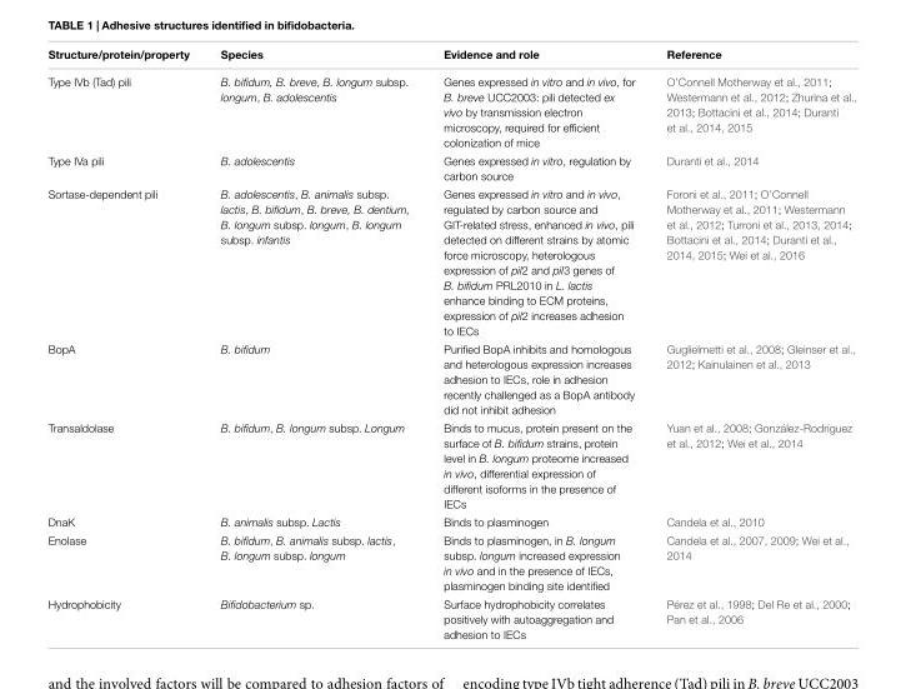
<table><thead><tr><td>Structure/protein/property</td><td>Species</td><td>Evidence and role</td><td>Reference</td></tr></thead><tbody><tr><td>Type IVb (Tad) pili</td><td>B. bifidum, B. breve, B. longum subsp. longum, B. adolescentis</td><td>Genes expressed in vitro and in vivo, for B. breve UCC2003: pili detected ex vivo by transmission electron microscopy, required for efficient colonization of mice</td><td>O’Connell Motherway et al., 2011; Westermann et al., 2012; Zhurina et al., 2013; Bottacini et al., 2014; Duranti et al., 2014, 2015</td></tr><tr><td>Type IVa pili</td><td>B. adolescentis</td><td>Genes expressed in vitro, regulation by carbon source</td><td>Duranti et al., 2014</td></tr><tr><td>Sortase-dependent pili</td><td>B. adolescentis, B. animalis subsp. lactis, B. bifidum, B. breve, B. dentium, B. longum subsp. longum, B. longum subsp. infantis</td><td>Genes expressed in vitro and in vivo, regulated by carbon source and GIT-related stress, enhanced in vivo, pili detected on different strains by atomic force microscopy, heterologous expression of pil2 and pil3 genes of B. bifidum PRL2010 in L. lactis enhance binding to ECM proteins, expression of pil2 increases adhesion to IECs</td><td>Foroni et al., 2011; O’Connell Motherway et al., 2011; Westermann et al., 2012; Turroni et al., 2013, 2014; Bottacini et al., 2014; Duranti et al., 2014, 2015; Wei et al., 2016</td></tr><tr><td>BopA</td><td>B. bifidum</td><td>Purified BopA inhibits and homologous and heterologous expression increases adhesion to IECs, role in adhesion recently challenged as a BopA antibody did not inhibit adhesion</td><td>Guglielmetti et al., 2008; Gleinser et al., 2012; Kainulainen et al., 2013</td></tr><tr><td>Transaldolase</td><td>B. bifidum, B. longum subsp. Longum</td><td>Binds to mucus, protein present on the surface of B. bifidum strains, protein level in B. longum proteome increased in vivo, differential expression of different isoforms in the presence of IECs</td><td>Yuan et al., 2008; González-Rodríguez et al., 2012; Wei et al., 2014</td></tr><tr><td>DnaK</td><td>B. animalis subsp. Lactis</td><td>Binds to plasminogen</td><td>Candela et al., 2010</td></tr><tr><td>Enolase</td><td>B. bifidum, B. animalis subsp. lactis, B. longum subsp. longum</td><td>Binds to plasminogen, in B. longum subsp. longum increased expression in vivo and in the presence of IECs, plasminogen binding site identified</td><td>Candela et al., 2007, 2009; Wei et al., 2014</td></tr><tr><td>Hydrophobicity</td><td>Bifidobacterium sp.</td><td>Surface hydrophobicity correlates positively with autoaggregation and adhesion to IECs</td><td>Pérez et al., 1998; Del Re et al., 2000; Pan et al., 2006</td></tr></tbody></table>